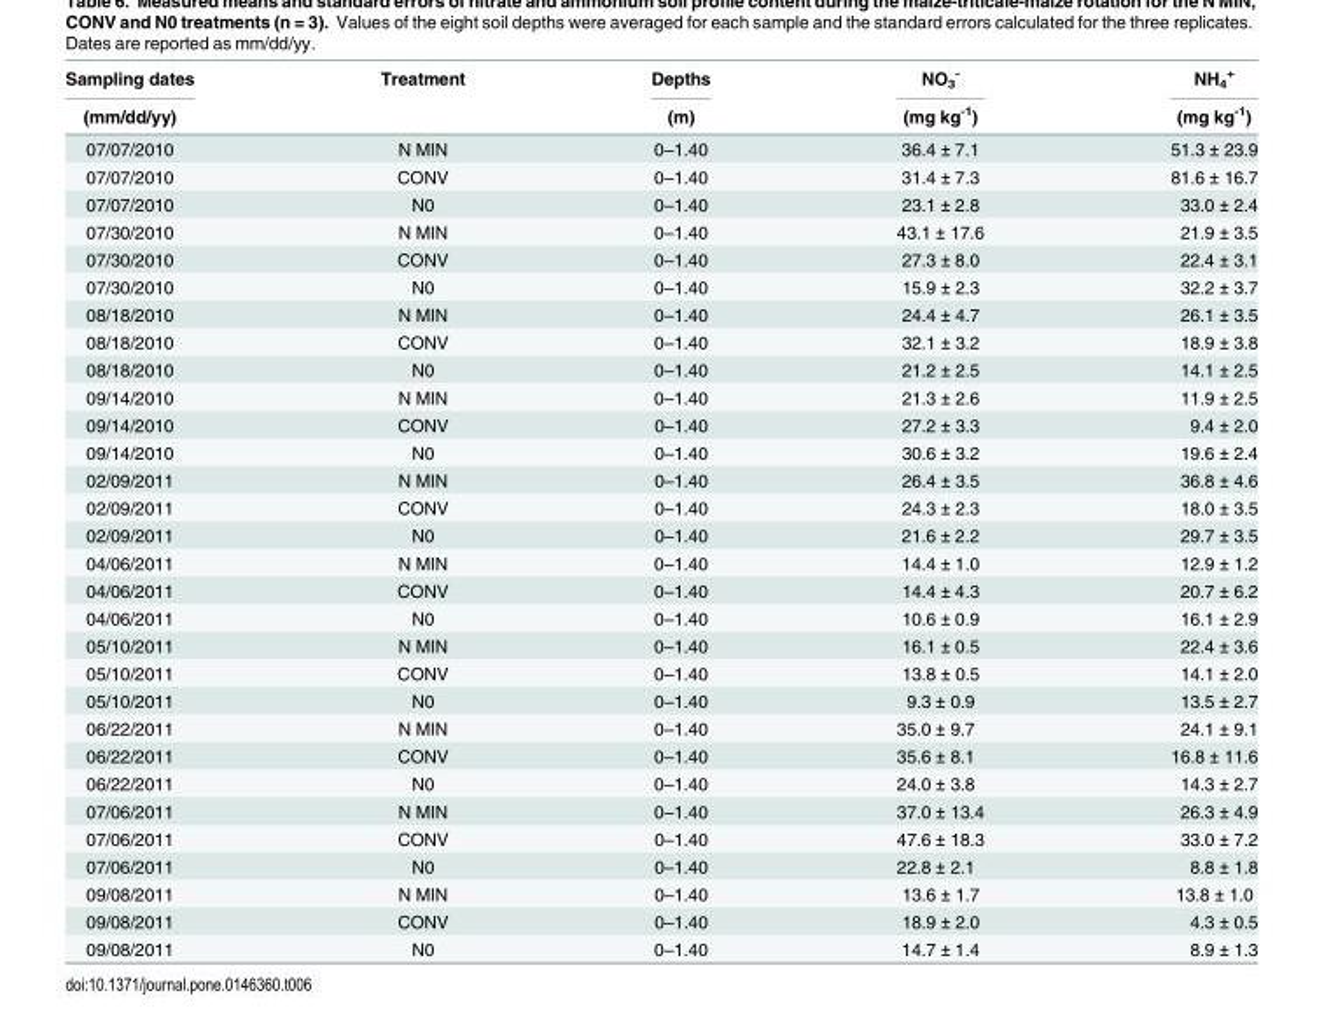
<table><thead><tr><td rowspan="2">Sampling dates (mm/dd/yy)</td><td rowspan="2">Treatment</td><td rowspan="2">Depths (m)</td><td rowspan="2">NO<sub>3</sub> <sup>-</sup> (mg kg<sup>-1</sup>)</td><td rowspan="2">NH<sub>4</sub> <sup>+</sup> (mg kg<sup>-1</sup>)</td></tr><tr></tr></thead><tbody><tr><td>07/07/2010</td><td>N MIN</td><td>0–1.40</td><td>36.4 ± 7.1</td><td>51.3 ± 23.9</td></tr><tr><td>07/07/2010</td><td>CONV</td><td>0–1.40</td><td>31.4 ± 7.3</td><td>81.6 ± 16.7</td></tr><tr><td>07/07/2010</td><td>N0</td><td>0–1.40</td><td>23.1 ± 2.8</td><td>33.0 ± 2.4</td></tr><tr><td>07/30/2010</td><td>N MIN</td><td>0–1.40</td><td>43.1 ± 17.6</td><td>21.9 ± 3.5</td></tr><tr><td>07/30/2010</td><td>CONV</td><td>0–1.40</td><td>27.3 ± 8.0</td><td>22.4 ± 3.1</td></tr><tr><td>07/30/2010</td><td>N0</td><td>0–1.40</td><td>15.9 ± 2.3</td><td>32.2 ± 3.7</td></tr><tr><td>08/18/2010</td><td>N MIN</td><td>0–1.40</td><td>24.4 ± 4.7</td><td>26.1 ± 3.5</td></tr><tr><td>08/18/2010</td><td>CONV</td><td>0–1.40</td><td>32.1 ± 3.2</td><td>18.9 ± 3.8</td></tr><tr><td>08/18/2010</td><td>N0</td><td>0–1.40</td><td>21.2 ± 2.5</td><td>14.1 ± 2.5</td></tr><tr><td>09/14/2010</td><td>N MIN</td><td>0–1.40</td><td>21.3 ± 2.6</td><td>11.9 ± 2.5</td></tr><tr><td>09/14/2010</td><td>CONV</td><td>0–1.40</td><td>27.2 ± 3.3</td><td>9.4 ± 2.0</td></tr><tr><td>09/14/2010</td><td>N0</td><td>0–1.40</td><td>30.6 ± 3.2</td><td>19.6 ± 2.4</td></tr><tr><td>02/09/2011</td><td>N MIN</td><td>0–1.40</td><td>26.4 ± 3.5</td><td>36.8 ± 4.6</td></tr><tr><td>02/09/2011</td><td>CONV</td><td>0–1.40</td><td>24.3 ± 2.3</td><td>18.0 ± 3.5</td></tr><tr><td>02/09/2011</td><td>N0</td><td>0–1.40</td><td>21.6 ± 2.2</td><td>29.7 ± 3.5</td></tr><tr><td>04/06/2011</td><td>N MIN</td><td>0–1.40</td><td>14.4 ± 1.0</td><td>12.9 ± 1.2</td></tr><tr><td>04/06/2011</td><td>CONV</td><td>0–1.40</td><td>14.4 ± 4.3</td><td>20.7 ± 6.2</td></tr><tr><td>04/06/2011</td><td>N0</td><td>0–1.40</td><td>10.6 ± 0.9</td><td>16.1 ± 2.9</td></tr><tr><td>05/10/2011</td><td>N MIN</td><td>0–1.40</td><td>16.1 ± 0.5</td><td>22.4 ± 3.6</td></tr><tr><td>05/10/2011</td><td>CONV</td><td>0–1.40</td><td>13.8 ± 0.5</td><td>14.1 ± 2.0</td></tr><tr><td>05/10/2011</td><td>N0</td><td>0–1.40</td><td>9.3 ± 0.9</td><td>13.5 ± 2.7</td></tr><tr><td>06/22/2011</td><td>N MIN</td><td>0–1.40</td><td>35.0 ± 9.7</td><td>24.1 ± 9.1</td></tr><tr><td>06/22/2011</td><td>CONV</td><td>0–1.40</td><td>35.6 ± 8.1</td><td>16.8 ± 11.6</td></tr><tr><td>06/22/2011</td><td>N0</td><td>0–1.40</td><td>24.0 ± 3.8</td><td>14.3 ± 2.7</td></tr><tr><td>07/06/2011</td><td>N MIN</td><td>0–1.40</td><td>37.0 ± 13.4</td><td>26.3 ± 4.9</td></tr><tr><td>07/06/2011</td><td>CONV</td><td>0–1.40</td><td>47.6 ± 18.3</td><td>33.0 ± 7.2</td></tr><tr><td>07/06/2011</td><td>N0</td><td>0–1.40</td><td>22.8 ± 2.1</td><td>8.8 ± 1.8</td></tr><tr><td>09/08/2011</td><td>N MIN</td><td>0–1.40</td><td>13.6 ± 1.7</td><td>13.8 ± 1.0</td></tr><tr><td>09/08/2011</td><td>CONV</td><td>0–1.40</td><td>18.9 ± 2.0</td><td>4.3 ± 0.5</td></tr><tr><td>09/08/2011</td><td>N0</td><td>0–1.40</td><td>14.7 ± 1.4</td><td>8.9 ± 1.3</td></tr></tbody></table>